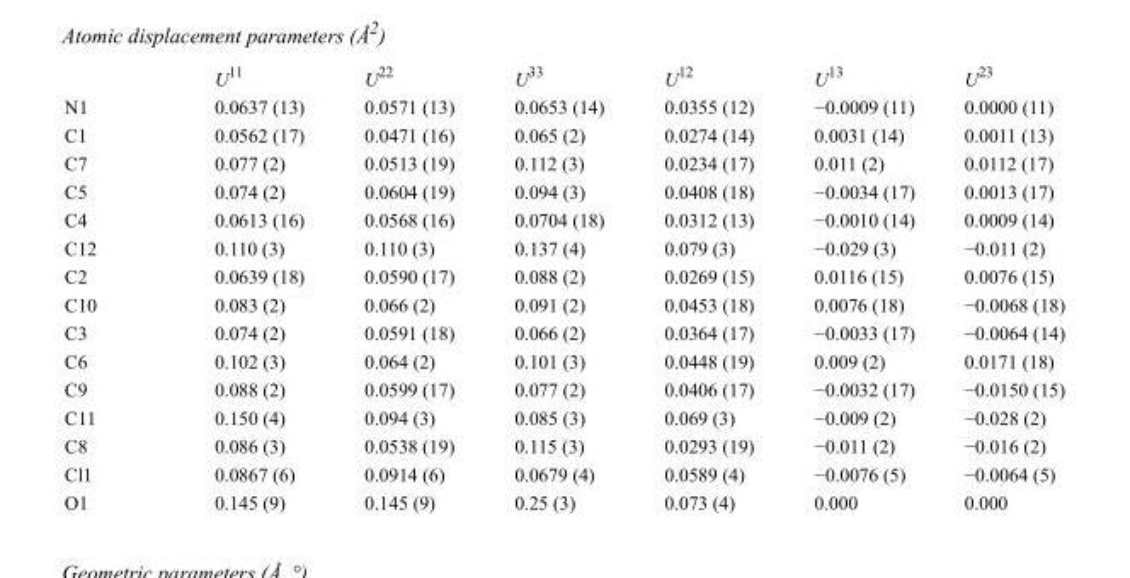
<table><thead><tr><td></td><td>U<sup>11</sup></td><td>U<sup>22</sup></td><td>U<sup>33</sup></td><td>U<sup>12</sup></td><td>U<sup>13</sup></td><td>U<sup>23</sup></td></tr></thead><tbody><tr><td>N1</td><td>0.0637 (13)</td><td>0.0571 (13)</td><td>0.0653 (14)</td><td>0.0355 (12)</td><td>−0.0009 (11)</td><td>0.0000 (11)</td></tr><tr><td>C1</td><td>0.0562 (17)</td><td>0.0471 (16)</td><td>0.065 (2)</td><td>0.0274 (14)</td><td>0.0031 (14)</td><td>0.0011 (13)</td></tr><tr><td>C7</td><td>0.077 (2)</td><td>0.0513 (19)</td><td>0.112 (3)</td><td>0.0234 (17)</td><td>0.011 (2)</td><td>0.0112 (17)</td></tr><tr><td>C5</td><td>0.074 (2)</td><td>0.0604 (19)</td><td>0.094 (3)</td><td>0.0408 (18)</td><td>−0.0034 (17)</td><td>0.0013 (17)</td></tr><tr><td>C4</td><td>0.0613 (16)</td><td>0.0568 (16)</td><td>0.0704 (18)</td><td>0.0312 (13)</td><td>−0.0010 (14)</td><td>0.0009 (14)</td></tr><tr><td>C12</td><td>0.110 (3)</td><td>0.110 (3)</td><td>0.137 (4)</td><td>0.079 (3)</td><td>−0.029 (3)</td><td>−0.011 (2)</td></tr><tr><td>C2</td><td>0.0639 (18)</td><td>0.0590 (17)</td><td>0.088 (2)</td><td>0.0269 (15)</td><td>0.0116 (15)</td><td>0.0076 (15)</td></tr><tr><td>C10</td><td>0.083 (2)</td><td>0.066 (2)</td><td>0.091 (2)</td><td>0.0453 (18)</td><td>0.0076 (18)</td><td>−0.0068 (18)</td></tr><tr><td>C3</td><td>0.074 (2)</td><td>0.0591 (18)</td><td>0.066 (2)</td><td>0.0364 (17)</td><td>−0.0033 (17)</td><td>−0.0064 (14)</td></tr><tr><td>C6</td><td>0.102 (3)</td><td>0.064 (2)</td><td>0.101 (3)</td><td>0.0448 (19)</td><td>0.009 (2)</td><td>0.0171 (18)</td></tr><tr><td>C9</td><td>0.088 (2)</td><td>0.0599 (17)</td><td>0.077 (2)</td><td>0.0406 (17)</td><td>−0.0032 (17)</td><td>−0.0150 (15)</td></tr><tr><td>C11</td><td>0.150 (4)</td><td>0.094 (3)</td><td>0.085 (3)</td><td>0.069 (3)</td><td>−0.009 (2)</td><td>−0.028 (2)</td></tr><tr><td>C8</td><td>0.086 (3)</td><td>0.0538 (19)</td><td>0.115 (3)</td><td>0.0293 (19)</td><td>−0.011 (2)</td><td>−0.016 (2)</td></tr><tr><td>Cl1</td><td>0.0867 (6)</td><td>0.0914 (6)</td><td>0.0679 (4)</td><td>0.0589 (4)</td><td>−0.0076 (5)</td><td>−0.0064 (5)</td></tr><tr><td>O1</td><td>0.145 (9)</td><td>0.145 (9)</td><td>0.25 (3)</td><td>0.073 (4)</td><td>0.000</td><td>0.000</td></tr></tbody></table>